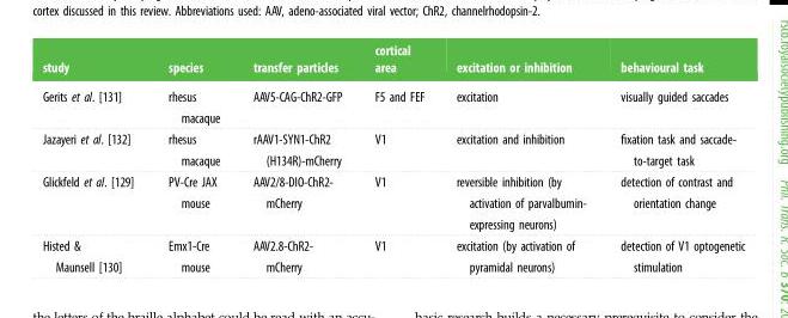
<table><thead><tr><td>study</td><td>species</td><td>transfer particles</td><td>cortical area</td><td>excitation or inhibition</td><td>behavioural task</td></tr></thead><tbody><tr><td>Gerits et al. [131]</td><td>rhesus macaque</td><td>AAV5-CAG-ChR2-GFP</td><td>F5 and FEF</td><td>excitation</td><td>visually guided saccades</td></tr><tr><td>Jazayeri et al. [132]</td><td>rhesus macaque</td><td>rAAV1-SYN1-ChR2 (H134R)-mCherry</td><td>V1</td><td>excitation and inhibition</td><td>fixation task and saccade- to-target task</td></tr><tr><td>Glickfeld et al. [129]</td><td>PV-Cre JAX mouse</td><td>AAV2/8-DIO-ChR2- mCherry</td><td>V1</td><td>reversible inhibition (by activation of parvalbumin- expressing neurons)</td><td>detection of contrast and orientation change</td></tr><tr><td>Histed &amp; Maunsell [130]</td><td>Emx1-Cre mouse</td><td>AAV2.8-ChR2- mCherry</td><td>V1</td><td>excitation (by activation of pyramidal neurons)</td><td>detection of V1 optogenetic stimulation</td></tr></tbody></table>